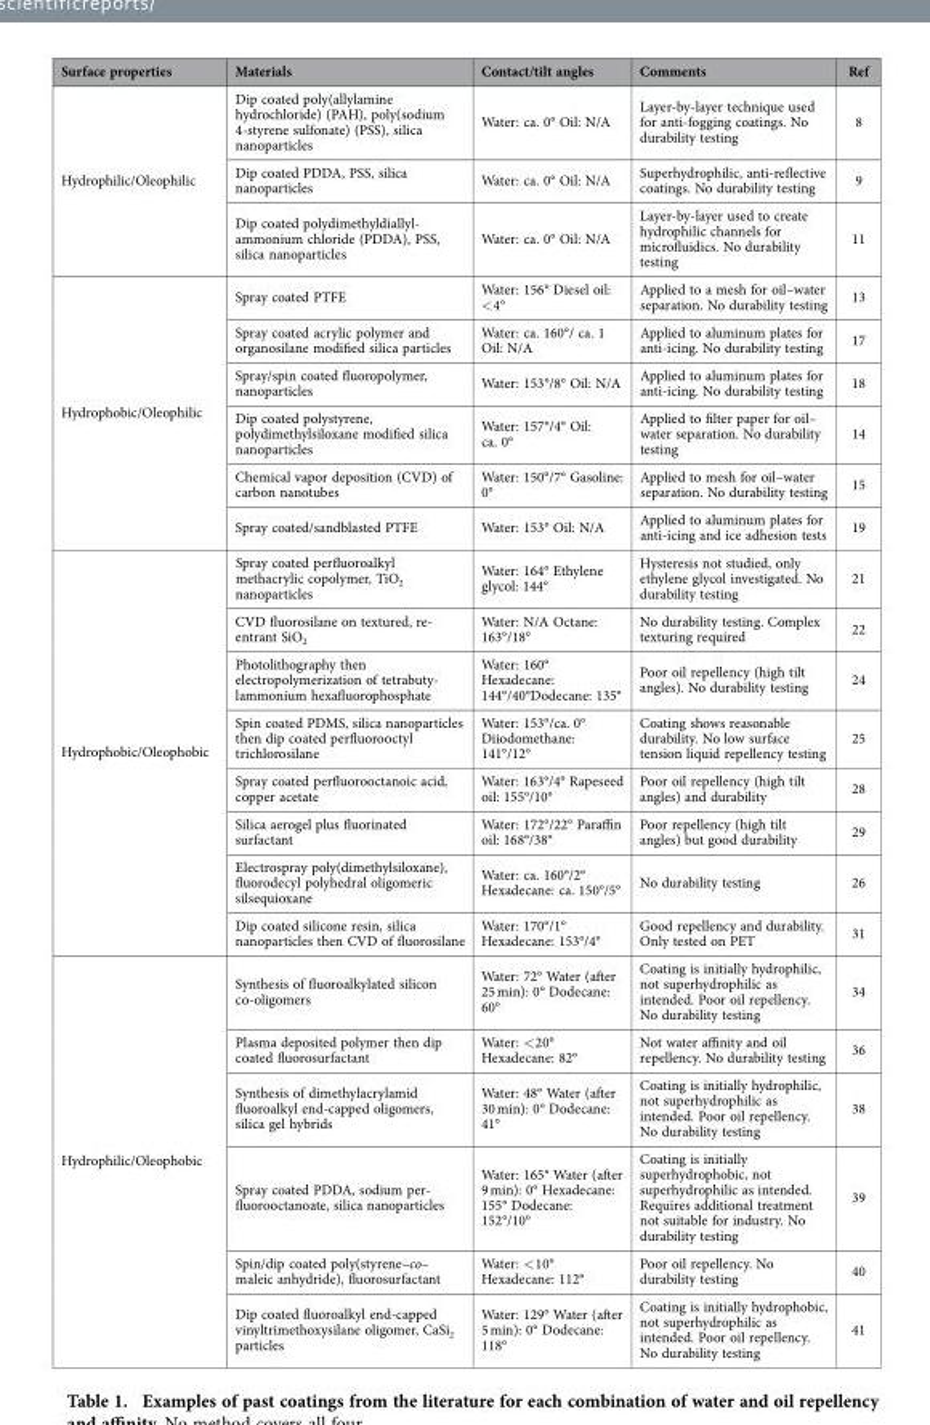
<table><thead><tr><td>Surface properties</td><td>Materials</td><td>Contact/tilt angles</td><td>Comments</td><td>Ref</td></tr></thead><tbody><tr><td rowspan="3">Hydrophilic/Oleophilic</td><td>Dip coated poly(allylamine hydrochloride) (PAH), poly(sodium 4-styrene sulfonate) (PSS), silica nanoparticles</td><td>Water: ca. 0° Oil: N/A</td><td>Layer-by-layer technique used for anti-fogging coatings. No durability testing</td><td>8</td></tr><tr><td>Dip coated PDDA, PSS, silica nanoparticles</td><td>Water: ca. 0° Oil: N/A</td><td>Superhydrophilic, anti-reflective coatings. No durability testing</td><td>9</td></tr><tr><td>Dip coated polydimethyldiallyl- ammonium chloride (PDDA), PSS, silica nanoparticles</td><td>Water: ca. 0° Oil: N/A</td><td>Layer-by-layer used to create hydrophilic channels for microfluidics. No durability testing</td><td>11</td></tr><tr><td rowspan="6">Hydrophobic/Oleophilic</td><td>Spray coated PTFE</td><td>Water: 156° Diesel oil: &lt; 4°</td><td>Applied to a mesh for oil–water separation. No durability testing</td><td>13</td></tr><tr><td>Spray coated acrylic polymer and organosilane modified silica particles</td><td>Water: ca. 160°/ ca. 1 Oil: N/A</td><td>Applied to aluminum plates for anti-icing. No durability testing</td><td>17</td></tr><tr><td>Spray/spin coated fluoropolymer, nanoparticles</td><td>Water: 153°/8° Oil: N/A</td><td>Applied to aluminum plates for anti-icing. No durability testing</td><td>18</td></tr><tr><td>Dip coated polystyrene, polydimethylsiloxane modified silica nanoparticles</td><td>Water: 157°/4° Oil: ca. 0°</td><td>Applied to filter paper for oil– water separation. No durability testing</td><td>14</td></tr><tr><td>Chemical vapor deposition (CVD) of carbon nanotubes</td><td>Water: 150°/7° Gasoline: 0°</td><td>Applied to mesh for oil–water separation. No durability testing</td><td>15</td></tr><tr><td>Spray coated/sandblasted PTFE</td><td>Water: 153° Oil: N/A</td><td>Applied to aluminum plates for anti-icing and ice adhesion tests</td><td>19</td></tr><tr><td rowspan="8">Hydrophobic/Oleophobic</td><td>Spray coated perfluoroalkyl methacrylic copolymer, TiO<sub>2</sub> nanoparticles</td><td>Water: 164° Ethylene glycol: 144°</td><td>Hysteresis not studied, only ethylene glycol investigated. No durability testing</td><td>21</td></tr><tr><td>CVD fluorosilane on textured, re- entrant SiO<sub>2</sub></td><td>Water: N/A Octane: 163°/18°</td><td>No durability testing. Complex texturing required</td><td>22</td></tr><tr><td>Photolithography then electropolymerization of tetrabuty- lammonium hexafluorophosphate</td><td>Water: 160° Hexadecane: 144°/40°Dodecane: 135°</td><td>Poor oil repellency (high tilt angles). No durability testing</td><td>24</td></tr><tr><td>Spin coated PDMS, silica nanoparticles then dip coated perfluorooctyl trichlorosilane</td><td>Water: 153°/ca. 0° Diiodomethane: 141°/12°</td><td>Coating shows reasonable durability. No low surface tension liquid repellency testing</td><td>25</td></tr><tr><td>Spray coated perfluorooctanoic acid, copper acetate</td><td>Water: 163°/4° Rapeseed oil: 155°/10°</td><td>Poor oil repellency (high tilt angles) and durability</td><td>28</td></tr><tr><td>Silica aerogel plus fluorinated surfactant</td><td>Water: 172°/22° Paraffin oil: 168°/38°</td><td>Poor repellency (high tilt angles) but good durability</td><td>29</td></tr><tr><td>Electrospray poly(dimethylsiloxane), fluorodecyl polyhedral oligomeric silsequioxane</td><td>Water: ca. 160°/2° Hexadecane: ca. 150°/5°</td><td>No durability testing</td><td>26</td></tr><tr><td>Dip coated silicone resin, silica nanoparticles then CVD of fluorosilane</td><td>Water: 170°/1° Hexadecane: 153°/4°</td><td>Good repellency and durability. Only tested on PET</td><td>31</td></tr><tr><td rowspan="6">Hydrophilic/Oleophobic</td><td>Synthesis of fluoroalkylated silicon co-oligomers</td><td>Water: 72° Water (after 25 min): 0° Dodecane: 60°</td><td>Coating is initially hydrophilic, not superhydrophilic as intended. Poor oil repellency. No durability testing</td><td>34</td></tr><tr><td>Plasma deposited polymer then dip coated fluorosurfactant</td><td>Water: &lt; 20° Hexadecane: 82°</td><td>Not water affinity and oil repellency. No durability testing</td><td>36</td></tr><tr><td>Synthesis of dimethylacrylamid fluoroalkyl end-capped oligomers, silica gel hybrids</td><td>Water: 48° Water (after 30 min): 0° Dodecane: 41°</td><td>Coating is initially hydrophilic, not superhydrophilic as intended. Poor oil repellency. No durability testing</td><td>38</td></tr><tr><td>Spray coated PDDA, sodium per- fluorooctanoate, silica nanoparticles</td><td>Water: 165° Water (after 9 min): 0° Hexadecane: 155° Dodecane: 152°/10°</td><td>Coating is initially superhydrophobic, not superhydrophilic as intended. Requires additional treatment not suitable for industry. No durability testing</td><td>39</td></tr><tr><td>Spin/dip coated poly(styrene–co– maleic anhydride), fluorosurfactant</td><td>Water: &lt; 10° Hexadecane: 112°</td><td>Poor oil repellency. No durability testing</td><td>40</td></tr><tr><td>Dip coated fluoroalkyl end-capped vinyltrimethoxysilane oligomer, CaSi<sub>2</sub> particles</td><td>Water: 129° Water (after 5 min): 0° Dodecane: 118°</td><td>Coating is initially hydrophobic, not superhydrophilic as intended. Poor oil repellency. No durability testing</td><td>41</td></tr></tbody></table>